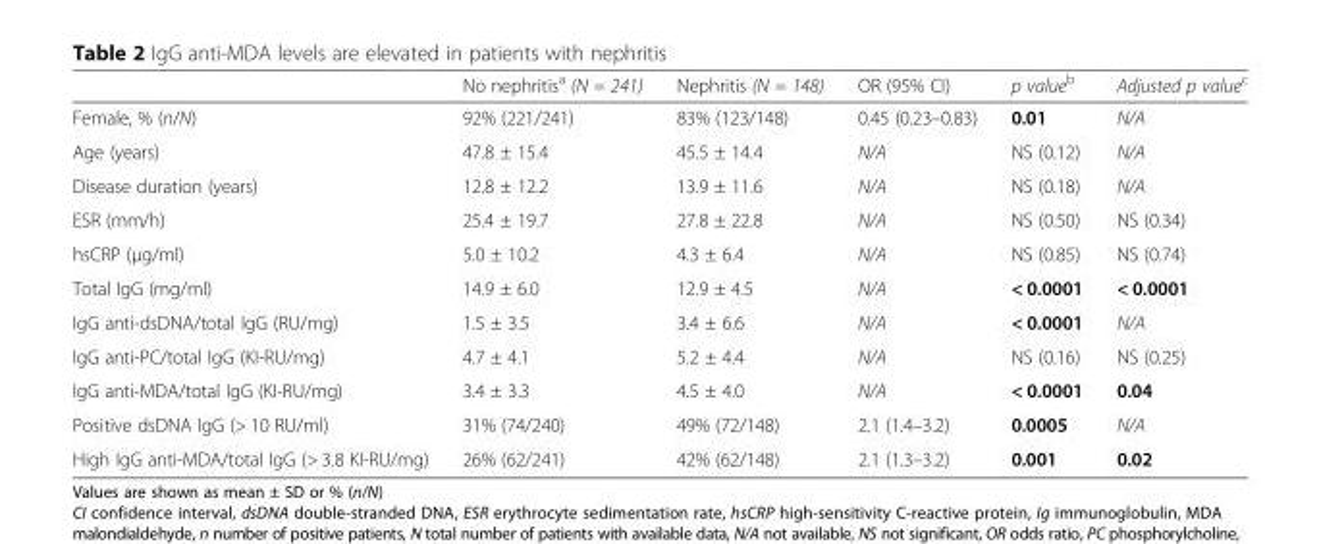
<table><thead><tr><td></td><td>No nephritis<sup>a</sup> (N = 241)</td><td>Nephritis (N = 148)</td><td>OR (95% CI)</td><td>p value<sup>b</sup></td><td>Adjusted p value<sup>c</sup></td></tr></thead><tbody><tr><td>Female, % (n/N)</td><td>92% (221/241)</td><td>83% (123/148)</td><td>0.45 (0.23–0.83)</td><td>0.01</td><td>N/A</td></tr><tr><td>Age (years)</td><td>47.8 ± 15.4</td><td>45.5 ± 14.4</td><td>N/A</td><td>NS (0.12)</td><td>N/A</td></tr><tr><td>Disease duration (years)</td><td>12.8 ± 12.2</td><td>13.9 ± 11.6</td><td>N/A</td><td>NS (0.18)</td><td>N/A</td></tr><tr><td>ESR (mm/h)</td><td>25.4 ± 19.7</td><td>27.8 ± 22.8</td><td>N/A</td><td>NS (0.50)</td><td>NS (0.34)</td></tr><tr><td>hsCRP (μg/ml)</td><td>5.0 ± 10.2</td><td>4.3 ± 6.4</td><td>N/A</td><td>NS (0.85)</td><td>NS (0.74)</td></tr><tr><td>Total IgG (mg/ml)</td><td>14.9 ± 6.0</td><td>12.9 ± 4.5</td><td>N/A</td><td>&lt; 0.0001</td><td>&lt; 0.0001</td></tr><tr><td>IgG anti-dsDNA/total IgG (RU/mg)</td><td>1.5 ± 3.5</td><td>3.4 ± 6.6</td><td>N/A</td><td>&lt; 0.0001</td><td>N/A</td></tr><tr><td>IgG anti-PC/total IgG (KI-RU/mg)</td><td>4.7 ± 4.1</td><td>5.2 ± 4.4</td><td>N/A</td><td>NS (0.16)</td><td>NS (0.25)</td></tr><tr><td>IgG anti-MDA/total IgG (KI-RU/mg)</td><td>3.4 ± 3.3</td><td>4.5 ± 4.0</td><td>N/A</td><td>&lt; 0.0001</td><td>0.04</td></tr><tr><td>Positive dsDNA IgG (&gt; 10 RU/ml)</td><td>31% (74/240)</td><td>49% (72/148)</td><td>2.1 (1.4–3.2)</td><td>0.0005</td><td>N/A</td></tr><tr><td>High IgG anti-MDA/total IgG (&gt; 3.8 KI-RU/mg)</td><td>26% (62/241)</td><td>42% (62/148)</td><td>2.1 (1.3–3.2)</td><td>0.001</td><td>0.02</td></tr></tbody></table>